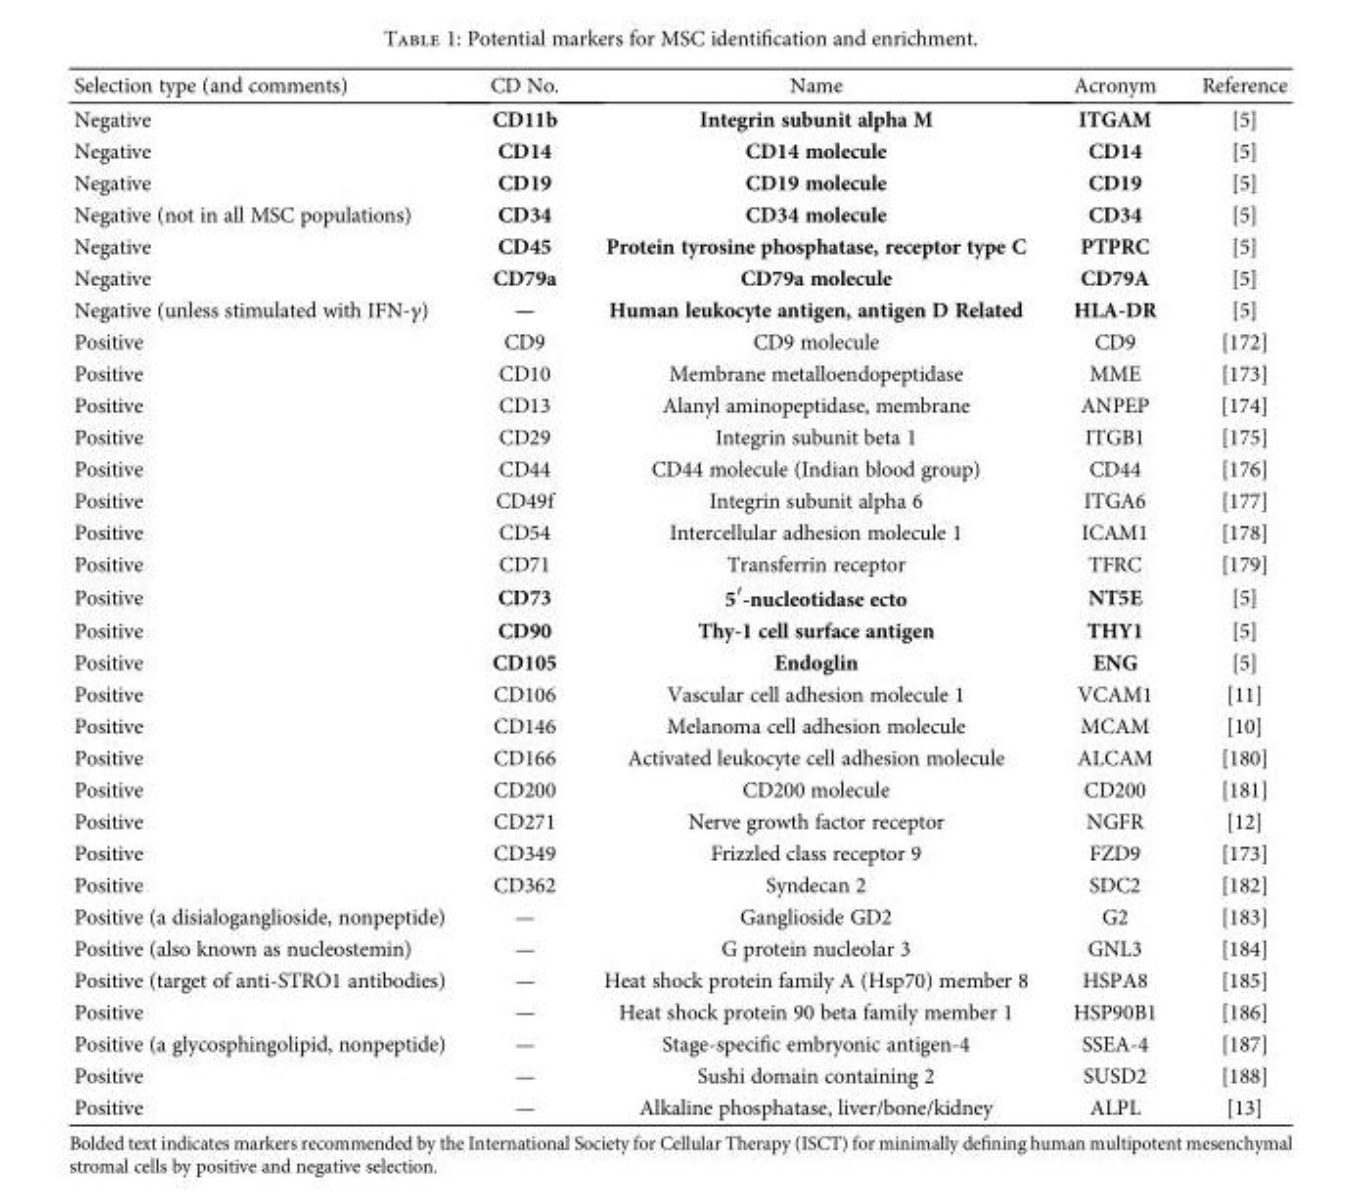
<table><thead><tr><td>Selection type (and comments)</td><td>CD No.</td><td>Name</td><td>Acronym</td><td>Reference</td></tr></thead><tbody><tr><td>Negative</td><td>CD11b</td><td>Integrin subunit alpha M</td><td>ITGAM</td><td>[5]</td></tr><tr><td>Negative</td><td>CD14</td><td>CD14 molecule</td><td>CD14</td><td>[5]</td></tr><tr><td>Negative</td><td>CD19</td><td>CD19 molecule</td><td>CD19</td><td>[5]</td></tr><tr><td>Negative (not in all MSC populations)</td><td>CD34</td><td>CD34 molecule</td><td>CD34</td><td>[5]</td></tr><tr><td>Negative</td><td>CD45</td><td>Protein tyrosine phosphatase, receptor type C</td><td>PTPRC</td><td>[5]</td></tr><tr><td>Negative</td><td>CD79a</td><td>CD79a molecule</td><td>CD79A</td><td>[5]</td></tr><tr><td>Negative (unless stimulated with IFN-γ)</td><td>—</td><td>Human leukocyte antigen, antigen D Related</td><td>HLA-DR</td><td>[5]</td></tr><tr><td>Positive</td><td>CD9</td><td>CD9 molecule</td><td>CD9</td><td>[172]</td></tr><tr><td>Positive</td><td>CD10</td><td>Membrane metalloendopeptidase</td><td>MME</td><td>[173]</td></tr><tr><td>Positive</td><td>CD13</td><td>Alanyl aminopeptidase, membrane</td><td>ANPEP</td><td>[174]</td></tr><tr><td>Positive</td><td>CD29</td><td>Integrin subunit beta 1</td><td>ITGB1</td><td>[175]</td></tr><tr><td>Positive</td><td>CD44</td><td>CD44 molecule (Indian blood group)</td><td>CD44</td><td>[176]</td></tr><tr><td>Positive</td><td>CD49f</td><td>Integrin subunit alpha 6</td><td>ITGA6</td><td>[177]</td></tr><tr><td>Positive</td><td>CD54</td><td>Intercellular adhesion molecule 1</td><td>ICAM1</td><td>[178]</td></tr><tr><td>Positive</td><td>CD71</td><td>Transferrin receptor</td><td>TFRC</td><td>[179]</td></tr><tr><td>Positive</td><td>CD73</td><td>5′-nucleotidase ecto</td><td>NT5E</td><td>[5]</td></tr><tr><td>Positive</td><td>CD90</td><td>Thy-1 cell surface antigen</td><td>THY1</td><td>[5]</td></tr><tr><td>Positive</td><td>CD105</td><td>Endoglin</td><td>ENG</td><td>[5]</td></tr><tr><td>Positive</td><td>CD106</td><td>Vascular cell adhesion molecule 1</td><td>VCAM1</td><td>[11]</td></tr><tr><td>Positive</td><td>CD146</td><td>Melanoma cell adhesion molecule</td><td>MCAM</td><td>[10]</td></tr><tr><td>Positive</td><td>CD166</td><td>Activated leukocyte cell adhesion molecule</td><td>ALCAM</td><td>[180]</td></tr><tr><td>Positive</td><td>CD200</td><td>CD200 molecule</td><td>CD200</td><td>[181]</td></tr><tr><td>Positive</td><td>CD271</td><td>Nerve growth factor receptor</td><td>NGFR</td><td>[12]</td></tr><tr><td>Positive</td><td>CD349</td><td>Frizzled class receptor 9</td><td>FZD9</td><td>[173]</td></tr><tr><td>Positive</td><td>CD362</td><td>Syndecan 2</td><td>SDC2</td><td>[182]</td></tr><tr><td>Positive (a disialoganglioside, nonpeptide)</td><td>—</td><td>Ganglioside GD2</td><td>G2</td><td>[183]</td></tr><tr><td>Positive (also known as nucleostemin)</td><td>—</td><td>G protein nucleolar 3</td><td>GNL3</td><td>[184]</td></tr><tr><td>Positive (target of anti-STRO1 antibodies)</td><td>—</td><td>Heat shock protein family A (Hsp70) member 8</td><td>HSPA8</td><td>[185]</td></tr><tr><td>Positive</td><td>—</td><td>Heat shock protein 90 beta family member 1</td><td>HSP90B1</td><td>[186]</td></tr><tr><td>Positive (a glycosphingolipid, nonpeptide)</td><td>—</td><td>Stage-specific embryonic antigen-4</td><td>SSEA-4</td><td>[187]</td></tr><tr><td>Positive</td><td>—</td><td>Sushi domain containing 2</td><td>SUSD2</td><td>[188]</td></tr><tr><td>Positive</td><td>—</td><td>Alkaline phosphatase, liver/bone/kidney</td><td>ALPL</td><td>[13]</td></tr></tbody></table>